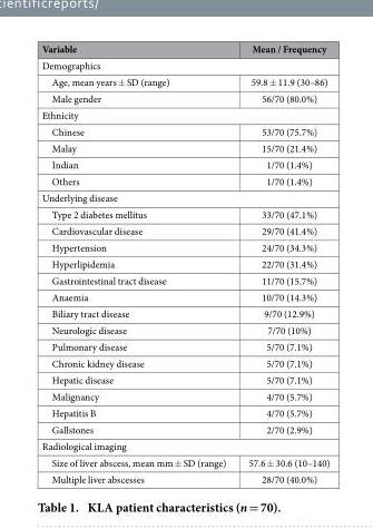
<table><thead><tr><td>Variable</td><td>Mean / Frequency</td></tr></thead><tbody><tr><td colspan="2">Demographics</td></tr><tr><td>Age, mean years ± SD (range)</td><td>59.8 ± 11.9 (30–86)</td></tr><tr><td>Male gender</td><td>56/70 (80.0%)</td></tr><tr><td colspan="2">Ethnicity</td></tr><tr><td>Chinese</td><td>53/70 (75.7%)</td></tr><tr><td>Malay</td><td>15/70 (21.4%)</td></tr><tr><td>Indian</td><td>1/70 (1.4%)</td></tr><tr><td>Others</td><td>1/70 (1.4%)</td></tr><tr><td colspan="2">Underlying disease</td></tr><tr><td>Type 2 diabetes mellitus</td><td>33/70 (47.1%)</td></tr><tr><td>Cardiovascular disease</td><td>29/70 (41.4%)</td></tr><tr><td>Hypertension</td><td>24/70 (34.3%)</td></tr><tr><td>Hyperlipidemia</td><td>22/70 (31.4%)</td></tr><tr><td>Gastrointestinal tract disease</td><td>11/70 (15.7%)</td></tr><tr><td>Anaemia</td><td>10/70 (14.3%)</td></tr><tr><td>Biliary tract disease</td><td>9/70 (12.9%)</td></tr><tr><td>Neurologic disease</td><td>7/70 (10%)</td></tr><tr><td>Pulmonary disease</td><td>5/70 (7.1%)</td></tr><tr><td>Chronic kidney disease</td><td>5/70 (7.1%)</td></tr><tr><td>Hepatic disease</td><td>5/70 (7.1%)</td></tr><tr><td>Malignancy</td><td>4/70 (5.7%)</td></tr><tr><td>Hepatitis B</td><td>4/70 (5.7%)</td></tr><tr><td>Gallstones</td><td>2/70 (2.9%)</td></tr><tr><td colspan="2">Radiological imaging</td></tr><tr><td>Size of liver abscess, mean mm ± SD (range)</td><td>57.6 ± 30.6 (10–140)</td></tr><tr><td>Multiple liver abscesses</td><td>28/70 (40.0%)</td></tr></tbody></table>